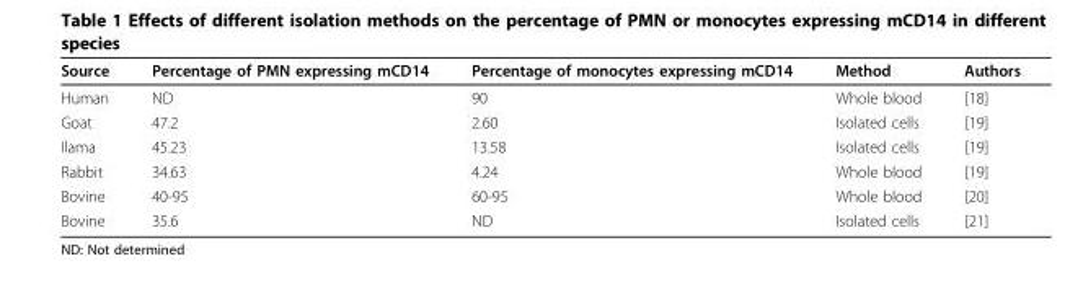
<table><thead><tr><td>Source</td><td>Percentage of PMN expressing mCD14</td><td>Percentage of monocytes expressing mCD14</td><td>Method</td><td>Authors</td></tr></thead><tbody><tr><td>Human</td><td>ND</td><td>90</td><td>Whole blood</td><td>[18]</td></tr><tr><td>Goat</td><td>47.2</td><td>2.60</td><td>Isolated cells</td><td>[19]</td></tr><tr><td>Ilama</td><td>45.23</td><td>13.58</td><td>Isolated cells</td><td>[19]</td></tr><tr><td>Rabbit</td><td>34.63</td><td>4.24</td><td>Whole blood</td><td>[19]</td></tr><tr><td>Bovine</td><td>40-95</td><td>60-95</td><td>Whole blood</td><td>[20]</td></tr><tr><td>Bovine</td><td>35.6</td><td>ND</td><td>Isolated cells</td><td>[21]</td></tr></tbody></table>